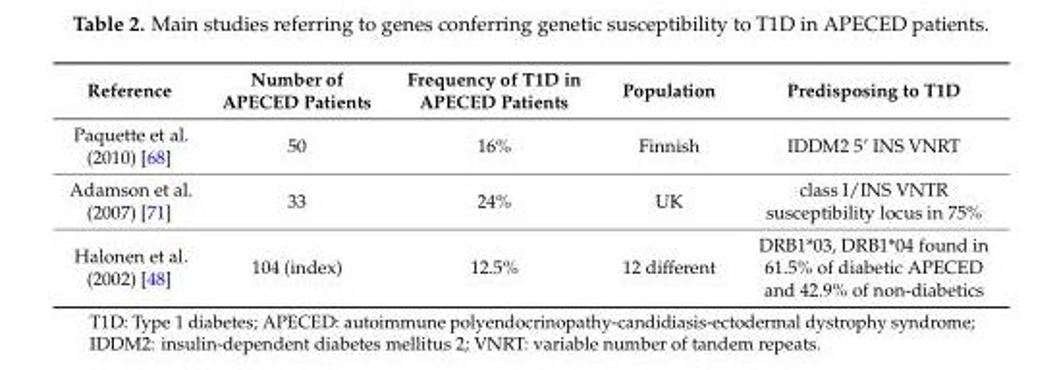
<table><thead><tr><td>Reference</td><td>Number of APECED Patients</td><td>Frequency of T1D in APECED Patients</td><td>Population</td><td>Predisposing to T1D</td></tr></thead><tbody><tr><td>Paquette et al. (2010) [68]</td><td>50</td><td>16%</td><td>Finnish</td><td>IDDM2 5’ INS VNRT</td></tr><tr><td>Adamson et al. (2007) [71]</td><td>33</td><td>24%</td><td>UK</td><td>class I/INS VNTR susceptibility locus in 75%</td></tr><tr><td>Halonen et al. (2002) [48]</td><td>104 (index)</td><td>12.5%</td><td>12 different</td><td>DRB1*03, DRB1*04 found in 61.5% of diabetic APECED and 42.9% of non-diabetics</td></tr></tbody></table>